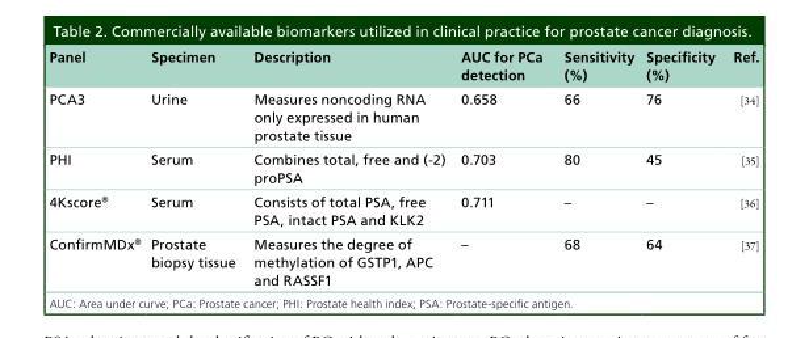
<table><thead><tr><td>Panel</td><td>Specimen</td><td>Description</td><td>AUC for PCa detection</td><td>Sensitivity (%)</td><td>Specificity (%)</td><td>Ref.</td></tr></thead><tbody><tr><td>PCA3</td><td>Urine</td><td>Measures noncoding RNA only expressed in human prostate tissue</td><td>0.658</td><td>66</td><td>76</td><td>[34]</td></tr><tr><td>PHI</td><td>Serum</td><td>Combines total, free and (-2) proPSA</td><td>0.703</td><td>80</td><td>45</td><td>[35]</td></tr><tr><td>4Kscore<sup>®</sup></td><td>Serum</td><td>Consists of total PSA, free PSA, intact PSA and KLK2</td><td>0.711</td><td>–</td><td>–</td><td>[36]</td></tr><tr><td>ConfirmMDx<sup>®</sup></td><td>Prostate biopsy tissue</td><td>Measures the degree of methylation of GSTP1, APC and RASSF1</td><td>–</td><td>68</td><td>64</td><td>[37]</td></tr></tbody></table>